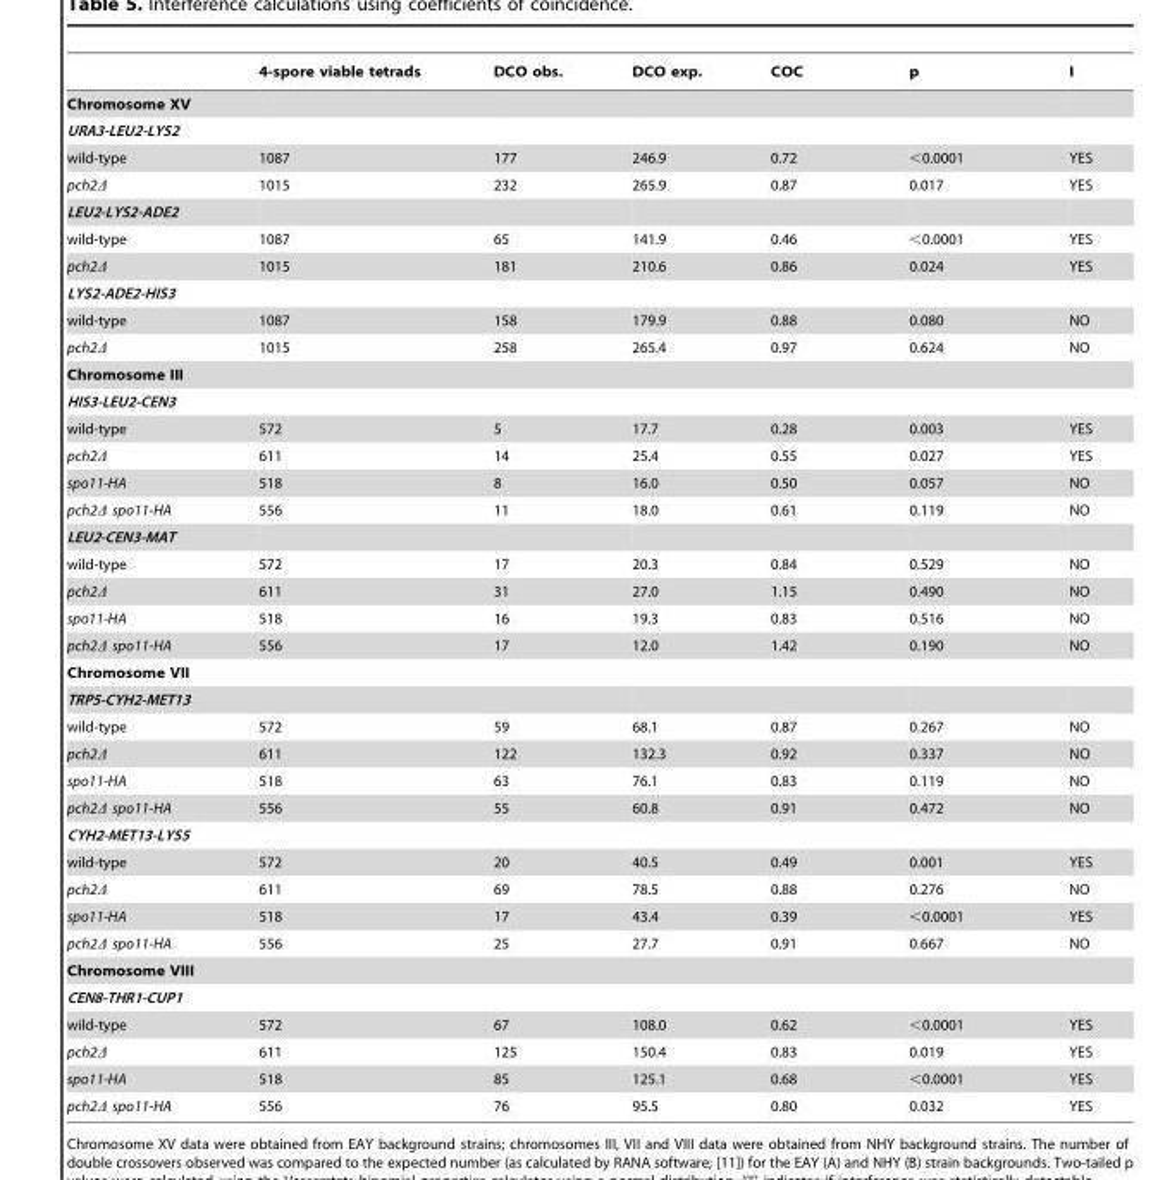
<table><thead><tr><td></td><td>4-spore viable tetrads</td><td>DCO obs.</td><td>DCO exp.</td><td>COC</td><td>p</td><td>I</td></tr></thead><tbody><tr><td colspan="7">Chromosome XV</td></tr><tr><td colspan="7">URA3-LEU2-LYS2</td></tr><tr><td>wild-type</td><td>1087</td><td>177</td><td>246.9</td><td>0.72</td><td>&lt;0.0001</td><td>YES</td></tr><tr><td>pch2Δ</td><td>1015</td><td>232</td><td>265.9</td><td>0.87</td><td>0.017</td><td>YES</td></tr><tr><td colspan="7">LEU2-LYS2-ADE2</td></tr><tr><td>wild-type</td><td>1087</td><td>65</td><td>141.9</td><td>0.46</td><td>&lt;0.0001</td><td>YES</td></tr><tr><td>pch2Δ</td><td>1015</td><td>181</td><td>210.6</td><td>0.86</td><td>0.024</td><td>YES</td></tr><tr><td colspan="7">LYS2-ADE2-HIS3</td></tr><tr><td>wild-type</td><td>1087</td><td>158</td><td>179.9</td><td>0.88</td><td>0.080</td><td>NO</td></tr><tr><td>pch2Δ</td><td>1015</td><td>258</td><td>265.4</td><td>0.97</td><td>0.624</td><td>NO</td></tr><tr><td colspan="7">Chromosome III</td></tr><tr><td colspan="7">HIS3-LEU2-CEN3</td></tr><tr><td>wild-type</td><td>572</td><td>5</td><td>17.7</td><td>0.28</td><td>0.003</td><td>YES</td></tr><tr><td>pch2Δ</td><td>611</td><td>14</td><td>25.4</td><td>0.55</td><td>0.027</td><td>YES</td></tr><tr><td>spo11-HA</td><td>518</td><td>8</td><td>16.0</td><td>0.50</td><td>0.057</td><td>NO</td></tr><tr><td>pch2Δ spo11-HA</td><td>556</td><td>11</td><td>18.0</td><td>0.61</td><td>0.119</td><td>NO</td></tr><tr><td colspan="7">LEU2-CEN3-MAT</td></tr><tr><td>wild-type</td><td>572</td><td>17</td><td>20.3</td><td>0.84</td><td>0.529</td><td>NO</td></tr><tr><td>pch2Δ</td><td>611</td><td>31</td><td>27.0</td><td>1.15</td><td>0.490</td><td>NO</td></tr><tr><td>spo11-HA</td><td>518</td><td>16</td><td>19.3</td><td>0.83</td><td>0.516</td><td>NO</td></tr><tr><td>pch2Δ spo11-HA</td><td>556</td><td>17</td><td>12.0</td><td>1.42</td><td>0.190</td><td>NO</td></tr><tr><td colspan="7">Chromosome VII</td></tr><tr><td colspan="7">TRP5-CYH2-MET13</td></tr><tr><td>wild-type</td><td>572</td><td>59</td><td>68.1</td><td>0.87</td><td>0.267</td><td>NO</td></tr><tr><td>pch2Δ</td><td>611</td><td>122</td><td>132.3</td><td>0.92</td><td>0.337</td><td>NO</td></tr><tr><td>spo11-HA</td><td>518</td><td>63</td><td>76.1</td><td>0.83</td><td>0.119</td><td>NO</td></tr><tr><td>pch2Δ spo11-HA</td><td>556</td><td>55</td><td>60.8</td><td>0.91</td><td>0.472</td><td>NO</td></tr><tr><td colspan="7">CYH2-MET13-LYS5</td></tr><tr><td>wild-type</td><td>572</td><td>20</td><td>40.5</td><td>0.49</td><td>0.001</td><td>YES</td></tr><tr><td>pch2Δ</td><td>611</td><td>69</td><td>78.5</td><td>0.88</td><td>0.276</td><td>NO</td></tr><tr><td>spo11-HA</td><td>518</td><td>17</td><td>43.4</td><td>0.39</td><td>&lt;0.0001</td><td>YES</td></tr><tr><td>pch2Δ spo11-HA</td><td>556</td><td>25</td><td>27.7</td><td>0.91</td><td>0.667</td><td>NO</td></tr><tr><td colspan="7">Chromosome VIII</td></tr><tr><td colspan="7">CEN8-THR1-CUP1</td></tr><tr><td>wild-type</td><td>572</td><td>67</td><td>108.0</td><td>0.62</td><td>&lt;0.0001</td><td>YES</td></tr><tr><td>pch2Δ</td><td>611</td><td>125</td><td>150.4</td><td>0.83</td><td>0.019</td><td>YES</td></tr><tr><td>spo11-HA</td><td>518</td><td>85</td><td>125.1</td><td>0.68</td><td>&lt;0.0001</td><td>YES</td></tr><tr><td>pch2Δ spo11-HA</td><td>556</td><td>76</td><td>95.5</td><td>0.80</td><td>0.032</td><td>YES</td></tr></tbody></table>